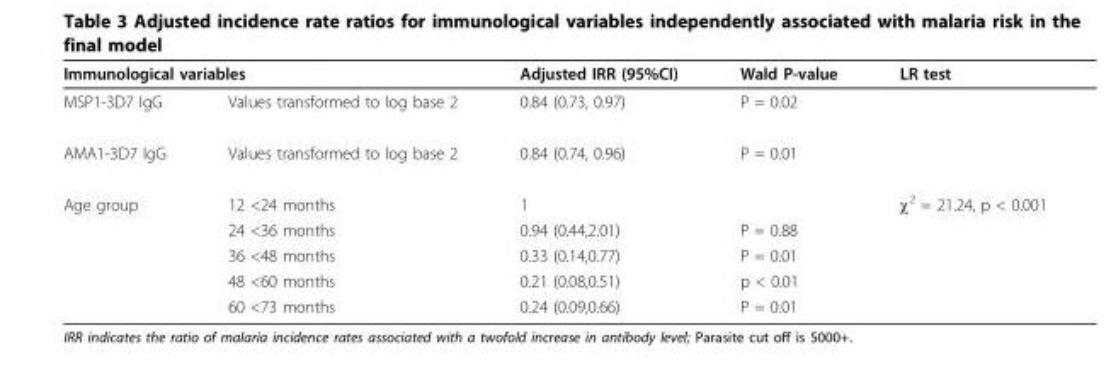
<table><thead><tr><td colspan="2">Immunological variables</td><td rowspan="2">Adjusted IRR (95%CI) 0.84 (0.73, 0.97)</td><td rowspan="2">Wald P-value P = 0.02</td><td rowspan="2">LR test</td></tr><tr><td>MSP1-3D7 IgG</td><td>Values transformed to log base 2</td></tr></thead><tbody><tr><td>AMA1-3D7 IgG</td><td>Values transformed to log base 2</td><td>0.84 (0.74, 0.96)</td><td>P = 0.01</td><td></td></tr><tr><td rowspan="5">Age group</td><td>12 &lt;24 months</td><td>1</td><td></td><td>χ<sup>2</sup> = 21.24, p &lt; 0.001</td></tr><tr><td>24 &lt;36 months</td><td>0.94 (0.44,2.01)</td><td>P = 0.88</td><td></td></tr><tr><td>36 &lt;48 months</td><td>0.33 (0.14,0.77)</td><td>P = 0.01</td><td></td></tr><tr><td>48 &lt;60 months</td><td>0.21 (0.08,0.51)</td><td>p &lt; 0.01</td><td></td></tr><tr><td>60 &lt;73 months</td><td>0.24 (0.09,0.66)</td><td>P = 0.01</td><td></td></tr></tbody></table>